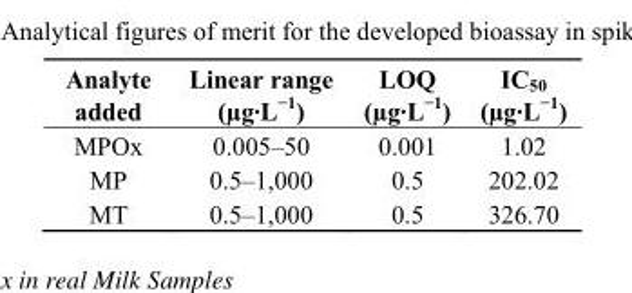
<table><thead><tr><td>Analyte added</td><td>Linear range (µg·L<sup>−1</sup>)</td><td>LOQ (µg·L<sup>−1</sup>)</td><td>IC<sub>50</sub> (µg·L<sup>−1</sup>)</td></tr></thead><tbody><tr><td>MPOx</td><td>0.005–50</td><td>0.001</td><td>1.02</td></tr><tr><td>MP</td><td>0.5–1,000</td><td>0.5</td><td>202.02</td></tr><tr><td>MT</td><td>0.5–1,000</td><td>0.5</td><td>326.70</td></tr></tbody></table>